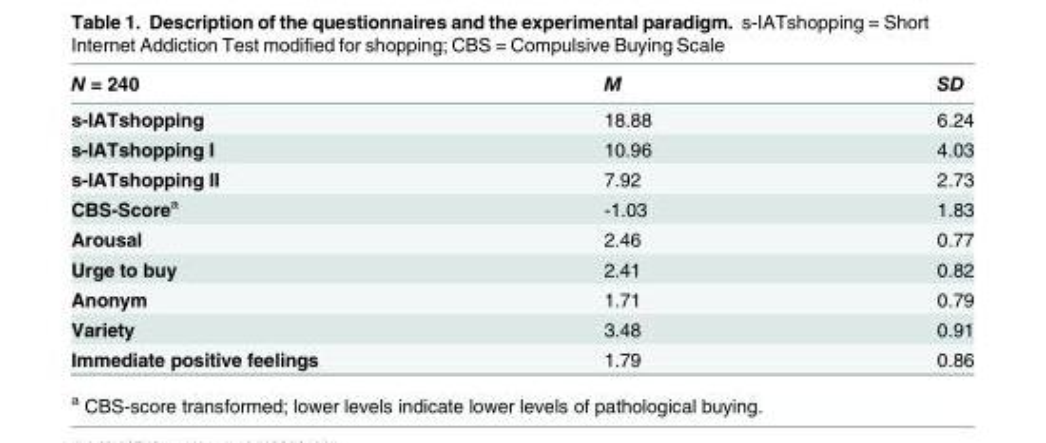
<table><thead><tr><td>N = 240</td><td>M</td><td>SD</td></tr></thead><tbody><tr><td>s-IATshopping</td><td>18.88</td><td>6.24</td></tr><tr><td>s-IATshopping I</td><td>10.96</td><td>4.03</td></tr><tr><td>s-IATshopping II</td><td>7.92</td><td>2.73</td></tr><tr><td>CBS-Score<sup>a</sup></td><td>-1.03</td><td>1.83</td></tr><tr><td>Arousal</td><td>2.46</td><td>0.77</td></tr><tr><td>Urge to buy</td><td>2.41</td><td>0.82</td></tr><tr><td>Anonym</td><td>1.71</td><td>0.79</td></tr><tr><td>Variety</td><td>3.48</td><td>0.91</td></tr><tr><td>Immediate positive feelings</td><td>1.79</td><td>0.86</td></tr></tbody></table>